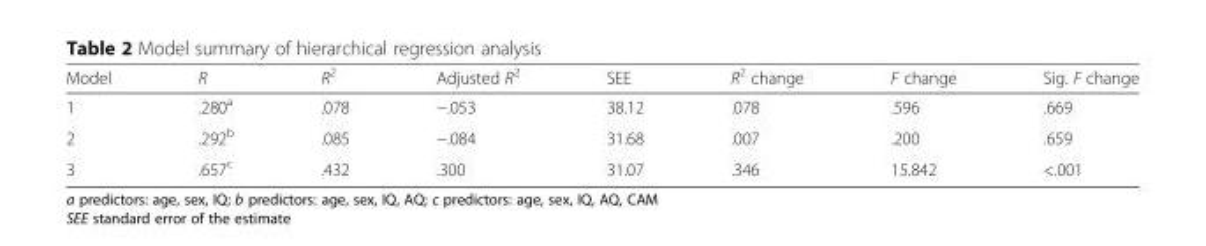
<table><thead><tr><td>Model</td><td>R</td><td>R<sup>2</sup></td><td>Adjusted R<sup>2</sup></td><td>SEE</td><td>R<sup>2</sup> change</td><td>F change</td><td>Sig. F change</td></tr></thead><tbody><tr><td>1</td><td>.280<sup>a</sup></td><td>.078</td><td>−.053</td><td>38.12</td><td>.078</td><td>.596</td><td>.669</td></tr><tr><td>2</td><td>.292<sup>b</sup></td><td>.085</td><td>−.084</td><td>31.68</td><td>.007</td><td>.200</td><td>.659</td></tr><tr><td>3</td><td>.657<sup>c</sup></td><td>.432</td><td>.300</td><td>31.07</td><td>.346</td><td>15.842</td><td>&lt;.001</td></tr></tbody></table>